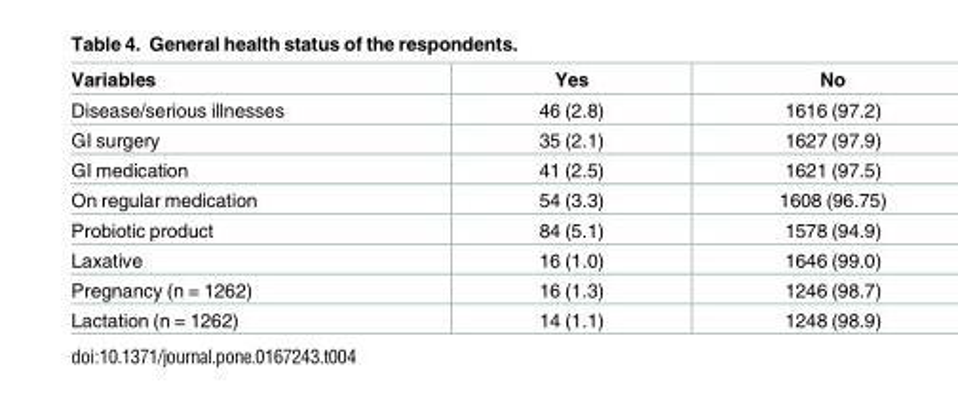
<table><thead><tr><td>Variables</td><td>Yes</td><td>No</td></tr></thead><tbody><tr><td>Disease/serious illnesses</td><td>46 (2.8)</td><td>1616 (97.2)</td></tr><tr><td>GI surgery</td><td>35 (2.1)</td><td>1627 (97.9)</td></tr><tr><td>GI medication</td><td>41 (2.5)</td><td>1621 (97.5)</td></tr><tr><td>On regular medication</td><td>54 (3.3)</td><td>1608 (96.75)</td></tr><tr><td>Probiotic product</td><td>84 (5.1)</td><td>1578 (94.9)</td></tr><tr><td>Laxative</td><td>16 (1.0)</td><td>1646 (99.0)</td></tr><tr><td>Pregnancy (n = 1262)</td><td>16 (1.3)</td><td>1246 (98.7)</td></tr><tr><td>Lactation (n = 1262)</td><td>14 (1.1)</td><td>1248 (98.9)</td></tr></tbody></table>